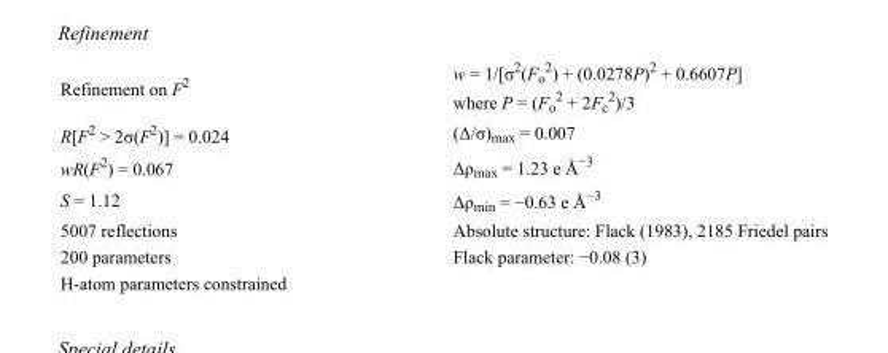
<table><tbody><tr><td>Refinement on F<sup>2</sup></td><td>w = 1/[σ<sup>2</sup>(F<sub>o</sub> <sup>2</sup>) + (0.0278P)<sup>2</sup> + 0.6607P] where P = (F<sub>o</sub> <sup>2</sup> + 2F<sub>c</sub> <sup>2</sup>)/3</td></tr><tr><td>R[F<sup>2</sup> &gt; 2σ(F<sup>2</sup>)] = 0.024</td><td>(Δ/σ)<sub>max</sub> = 0.007</td></tr><tr><td>wR(F<sup>2</sup>) = 0.067</td><td>Δρ<sub>max</sub> = 1.23 e Å<sup>−3</sup></td></tr><tr><td>S = 1.12</td><td>Δρ<sub>min</sub> = −0.63 e Å<sup>−3</sup></td></tr><tr><td>5007 reflections</td><td>Absolute structure: Flack (1983), 2185 Friedel pairs</td></tr><tr><td>200 parameters</td><td>Flack parameter: −0.08 (3)</td></tr><tr><td>H-atom parameters constrained</td><td></td></tr></tbody></table>